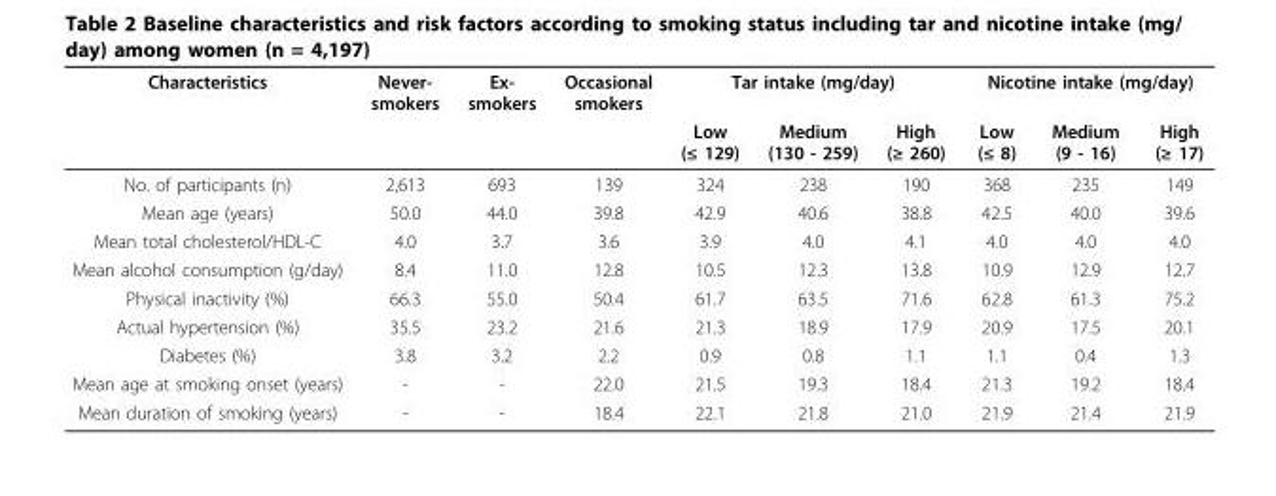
<table><thead><tr><td rowspan="2">Characteristics</td><td rowspan="2">Never- smokers</td><td rowspan="2">Ex- smokers</td><td rowspan="2">Occasional smokers</td><td colspan="3">Tar intake (mg/day)</td><td colspan="3">Nicotine intake (mg/day)</td></tr><tr><td>Low (≤ 129)</td><td>Medium (130 - 259)</td><td>High (≥ 260)</td><td>Low (≤ 8)</td><td>Medium (9 - 16)</td><td>High (≥ 17)</td></tr></thead><tbody><tr><td>No. of participants (n)</td><td>2,613</td><td>693</td><td>139</td><td>324</td><td>238</td><td>190</td><td>368</td><td>235</td><td>149</td></tr><tr><td>Mean age (years)</td><td>50.0</td><td>44.0</td><td>39.8</td><td>42.9</td><td>40.6</td><td>38.8</td><td>42.5</td><td>40.0</td><td>39.6</td></tr><tr><td>Mean total cholesterol/HDL-C</td><td>4.0</td><td>3.7</td><td>3.6</td><td>3.9</td><td>4.0</td><td>4.1</td><td>4.0</td><td>4.0</td><td>4.0</td></tr><tr><td>Mean alcohol consumption (g/day)</td><td>8.4</td><td>11.0</td><td>12.8</td><td>10.5</td><td>12.3</td><td>13.8</td><td>10.9</td><td>12.9</td><td>12.7</td></tr><tr><td>Physical inactivity (%)</td><td>66.3</td><td>55.0</td><td>50.4</td><td>61.7</td><td>63.5</td><td>71.6</td><td>62.8</td><td>61.3</td><td>75.2</td></tr><tr><td>Actual hypertension (%)</td><td>35.5</td><td>23.2</td><td>21.6</td><td>21.3</td><td>18.9</td><td>17.9</td><td>20.9</td><td>17.5</td><td>20.1</td></tr><tr><td>Diabetes (%)</td><td>3.8</td><td>3.2</td><td>2.2</td><td>0.9</td><td>0.8</td><td>1.1</td><td>1.1</td><td>0.4</td><td>1.3</td></tr><tr><td>Mean age at smoking onset (years)</td><td>-</td><td>-</td><td>22.0</td><td>21.5</td><td>19.3</td><td>18.4</td><td>21.3</td><td>19.2</td><td>18.4</td></tr><tr><td>Mean duration of smoking (years)</td><td>-</td><td>-</td><td>18.4</td><td>22.1</td><td>21.8</td><td>21.0</td><td>21.9</td><td>21.4</td><td>21.9</td></tr></tbody></table>